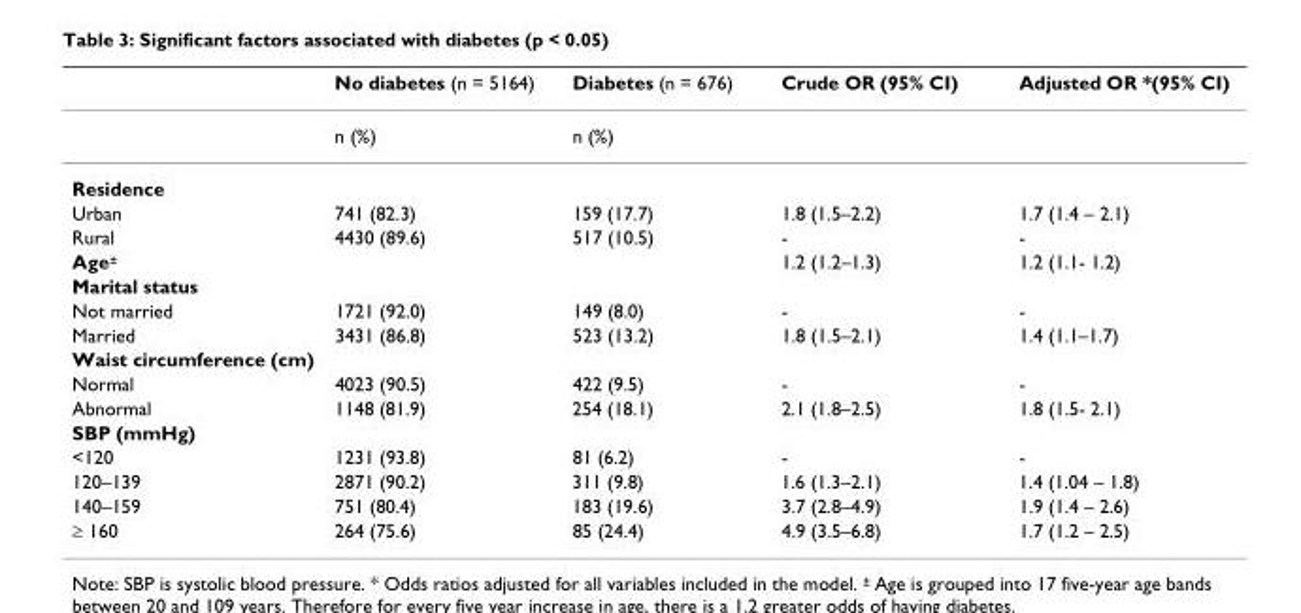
<table><thead><tr><td></td><td>No diabetes (n = 5164)</td><td>Diabetes (n = 676)</td><td>Crude OR (95% CI)</td><td>Adjusted OR *(95% CI)</td></tr></thead><tbody><tr><td></td><td>n (%)</td><td>n (%)</td><td></td><td></td></tr><tr><td colspan="5">Residence</td></tr><tr><td>Urban</td><td>741 (82.3)</td><td>159 (17.7)</td><td>1.8 (1.5–2.2)</td><td>1.7 (1.4 – 2.1)</td></tr><tr><td>Rural</td><td>4430 (89.6)</td><td>517 (10.5)</td><td>-</td><td>-</td></tr><tr><td>Age<sup>±</sup></td><td></td><td></td><td>1.2 (1.2–1.3)</td><td>1.2 (1.1- 1.2)</td></tr><tr><td colspan="5">Marital status</td></tr><tr><td>Not married</td><td>1721 (92.0)</td><td>149 (8.0)</td><td>-</td><td>-</td></tr><tr><td>Married</td><td>3431 (86.8)</td><td>523 (13.2)</td><td>1.8 (1.5–2.1)</td><td>1.4 (1.1–1.7)</td></tr><tr><td colspan="5">Waist circumference (cm)</td></tr><tr><td>Normal</td><td>4023 (90.5)</td><td>422 (9.5)</td><td>-</td><td>-</td></tr><tr><td>Abnormal</td><td>1148 (81.9)</td><td>254 (18.1)</td><td>2.1 (1.8–2.5)</td><td>1.8 (1.5- 2.1)</td></tr><tr><td colspan="5">SBP (mmHg)</td></tr><tr><td>&lt;120</td><td>1231 (93.8)</td><td>81 (6.2)</td><td>-</td><td>-</td></tr><tr><td>120–139</td><td>2871 (90.2)</td><td>311 (9.8)</td><td>1.6 (1.3–2.1)</td><td>1.4 (1.04 – 1.8)</td></tr><tr><td>140–159</td><td>751 (80.4)</td><td>183 (19.6)</td><td>3.7 (2.8–4.9)</td><td>1.9 (1.4 – 2.6)</td></tr><tr><td>≥ 160</td><td>264 (75.6)</td><td>85 (24.4)</td><td>4.9 (3.5–6.8)</td><td>1.7 (1.2 – 2.5)</td></tr></tbody></table>